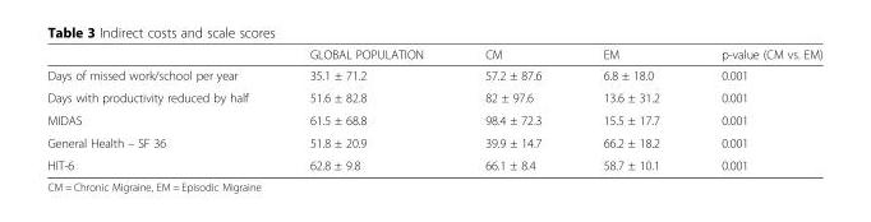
<table><thead><tr><td></td><td>GLOBAL POPULATION</td><td>CM</td><td>EM</td><td>p-value (CM vs. EM)</td></tr></thead><tbody><tr><td>Days of missed work/school per year</td><td>35.1 ± 71.2</td><td>57.2 ± 87.6</td><td>6.8 ± 18.0</td><td>0.001</td></tr><tr><td>Days with productivity reduced by half</td><td>51.6 ± 82.8</td><td>82 ± 97.6</td><td>13.6 ± 31.2</td><td>0.001</td></tr><tr><td>MIDAS</td><td>61.5 ± 68.8</td><td>98.4 ± 72.3</td><td>15.5 ± 17.7</td><td>0.001</td></tr><tr><td>General Health – SF 36</td><td>51.8 ± 20.9</td><td>39.9 ± 14.7</td><td>66.2 ± 18.2</td><td>0.001</td></tr><tr><td>HIT-6</td><td>62.8 ± 9.8</td><td>66.1 ± 8.4</td><td>58.7 ± 10.1</td><td>0.001</td></tr></tbody></table>